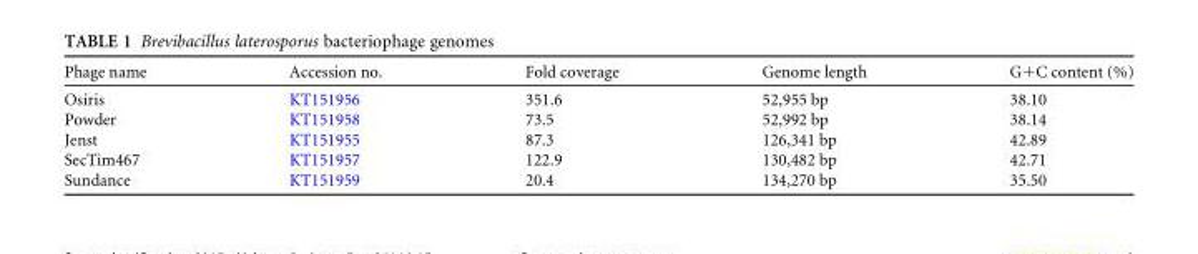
<table><thead><tr><td>Phage name</td><td>Accession no.</td><td>Fold coverage</td><td>Genome length</td><td>G+C content (%)</td></tr></thead><tbody><tr><td>Osiris</td><td>KT151956</td><td>351.6</td><td>52,955 bp</td><td>38.10</td></tr><tr><td>Powder</td><td>KT151958</td><td>73.5</td><td>52,992 bp</td><td>38.14</td></tr><tr><td>Jenst</td><td>KT151955</td><td>87.3</td><td>126,341 bp</td><td>42.89</td></tr><tr><td>SecTim467</td><td>KT151957</td><td>122.9</td><td>130,482 bp</td><td>42.71</td></tr><tr><td>Sundance</td><td>KT151959</td><td>20.4</td><td>134,270 bp</td><td>35.50</td></tr></tbody></table>